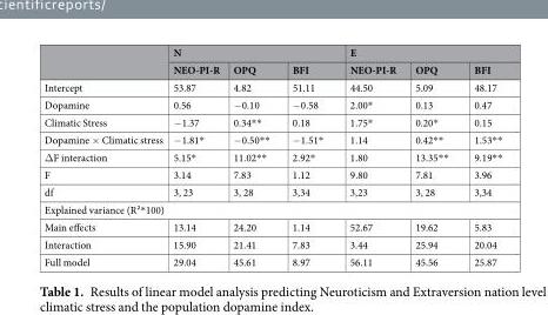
<table><thead><tr><td rowspan="2"></td><td colspan="3">N</td><td colspan="3">E</td></tr><tr><td>NEO-PI-R</td><td>OPQ</td><td>BFI</td><td>NEO-PI-R</td><td>OPQ</td><td>BFI</td></tr></thead><tbody><tr><td>Intercept</td><td>53.87</td><td>4.82</td><td>51.11</td><td>44.50</td><td>5.09</td><td>48.17</td></tr><tr><td>Dopamine</td><td>0.56</td><td>−0.10</td><td>−0.58</td><td>2.00*</td><td>0.13</td><td>0.47</td></tr><tr><td>Climatic Stress</td><td>−1.37</td><td>0.34**</td><td>0.18</td><td>1.75*</td><td>0.20*</td><td>0.15</td></tr><tr><td>Dopamine × Climatic stress</td><td>−1.81*</td><td>−0.50**</td><td>−1.51*</td><td>1.14</td><td>0.42**</td><td>1.53**</td></tr><tr><td>ΔF interaction</td><td>5.15*</td><td>11.02**</td><td>2.92*</td><td>1.80</td><td>13.35**</td><td>9.19**</td></tr><tr><td>F</td><td>3.14</td><td>7.83</td><td>1.12</td><td>9.80</td><td>7.81</td><td>3.96</td></tr><tr><td>df</td><td>3, 23</td><td>3, 28</td><td>3,34</td><td>3,23</td><td>3, 28</td><td>3,34</td></tr><tr><td colspan="7">Explained variance (R²*100)</td></tr><tr><td>Main effects</td><td>13.14</td><td>24.20</td><td>1.14</td><td>52.67</td><td>19.62</td><td>5.83</td></tr><tr><td>Interaction</td><td>15.90</td><td>21.41</td><td>7.83</td><td>3.44</td><td>25.94</td><td>20.04</td></tr><tr><td>Full model</td><td>29.04</td><td>45.61</td><td>8.97</td><td>56.11</td><td>45.56</td><td>25.87</td></tr></tbody></table>